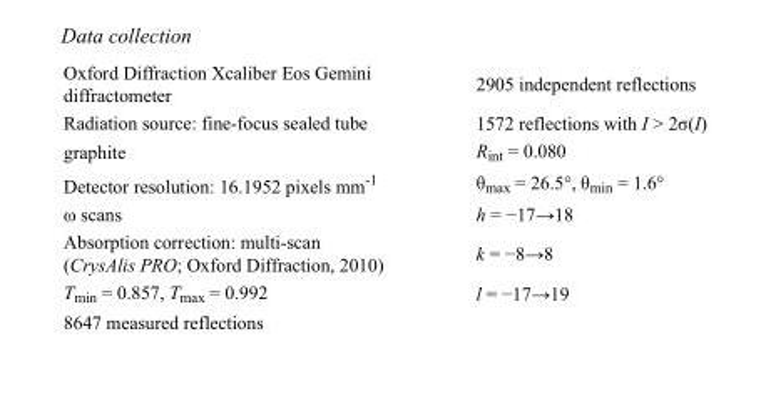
<table><tbody><tr><td>Oxford Diffraction Xcaliber Eos Gemini diffractometer</td><td>2905 independent reflections</td></tr><tr><td>Radiation source: fine-focus sealed tube</td><td>1572 reflections with I &gt; 2σ(I)</td></tr><tr><td>graphite</td><td>R<sub>int</sub> = 0.080</td></tr><tr><td>Detector resolution: 16.1952 pixels mm<sup>-1</sup></td><td>θ<sub>max</sub> = 26.5°, θ<sub>min</sub> = 1.6°</td></tr><tr><td>ω scans</td><td>h = −17→18</td></tr><tr><td>Absorption correction: multi-scan (CrysAlis PRO; Oxford Diffraction, 2010)</td><td>k = −8→8</td></tr><tr><td>T<sub>min</sub> = 0.857, T<sub>max</sub> = 0.992</td><td>l = −17→19</td></tr><tr><td>8647 measured reflections</td><td></td></tr></tbody></table>